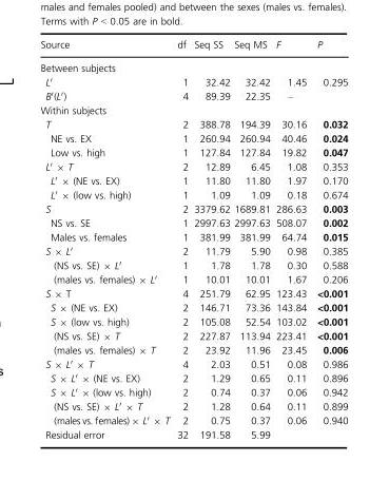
<table><thead><tr><td>Source</td><td>df</td><td>Seq SS</td><td>Seq MS</td><td>F</td><td>P</td></tr></thead><tbody><tr><td colspan="6">Between subjects</td></tr><tr><td>L′</td><td>1</td><td>32.42</td><td>32.42</td><td>1.45</td><td>0.295</td></tr><tr><td>B′(L′)</td><td>4</td><td>89.39</td><td>22.35</td><td>–</td><td></td></tr><tr><td colspan="6">Within subjects</td></tr><tr><td>T</td><td>2</td><td>388.78</td><td>194.39</td><td>30.16</td><td>0.032</td></tr><tr><td>NE vs. EX</td><td>1</td><td>260.94</td><td>260.94</td><td>40.46</td><td>0.024</td></tr><tr><td>Low vs. high</td><td>1</td><td>127.84</td><td>127.84</td><td>19.82</td><td>0.047</td></tr><tr><td>L′ × T</td><td>2</td><td>12.89</td><td>6.45</td><td>1.08</td><td>0.353</td></tr><tr><td>L′ × (NE vs. EX)</td><td>1</td><td>11.80</td><td>11.80</td><td>1.97</td><td>0.170</td></tr><tr><td>L′ × (low vs. high)</td><td>1</td><td>1.09</td><td>1.09</td><td>0.18</td><td>0.674</td></tr><tr><td>S</td><td>2</td><td>3379.62</td><td>1689.81</td><td>286.63</td><td>0.003</td></tr><tr><td>NS vs. SE</td><td>1</td><td>2997.63</td><td>2997.63</td><td>508.07</td><td>0.002</td></tr><tr><td>Males vs. females</td><td>1</td><td>381.99</td><td>381.99</td><td>64.74</td><td>0.015</td></tr><tr><td>S × L′</td><td>2</td><td>11.79</td><td>5.90</td><td>0.98</td><td>0.385</td></tr><tr><td>(NS vs. SE) × L′</td><td>1</td><td>1.78</td><td>1.78</td><td>0.30</td><td>0.588</td></tr><tr><td>(males vs. females) × L′</td><td>1</td><td>10.01</td><td>10.01</td><td>1.67</td><td>0.206</td></tr><tr><td>S × T</td><td>4</td><td>251.79</td><td>62.95</td><td>123.43</td><td>&lt;0.001</td></tr><tr><td>S × (NE vs. EX)</td><td>2</td><td>146.71</td><td>73.36</td><td>143.84</td><td>&lt;0.001</td></tr><tr><td>S × (low vs. high)</td><td>2</td><td>105.08</td><td>52.54</td><td>103.02</td><td>&lt;0.001</td></tr><tr><td>(NS vs. SE) × T</td><td>2</td><td>227.87</td><td>113.94</td><td>223.41</td><td>&lt;0.001</td></tr><tr><td>(males vs. females) × T</td><td>2</td><td>23.92</td><td>11.96</td><td>23.45</td><td>0.006</td></tr><tr><td>S × L′ × T</td><td>4</td><td>2.03</td><td>0.51</td><td>0.08</td><td>0.986</td></tr><tr><td>S × L′ × (NE vs. EX)</td><td>2</td><td>1.29</td><td>0.65</td><td>0.11</td><td>0.896</td></tr><tr><td>S × L′ × (low vs. high)</td><td>2</td><td>0.74</td><td>0.37</td><td>0.06</td><td>0.942</td></tr><tr><td>(NS vs. SE) × L′ × T</td><td>2</td><td>1.28</td><td>0.64</td><td>0.11</td><td>0.899</td></tr><tr><td>(males vs. females) × L′ × T</td><td>2</td><td>0.75</td><td>0.37</td><td>0.06</td><td>0.940</td></tr><tr><td>Residual error</td><td>32</td><td>191.58</td><td>5.99</td><td></td><td></td></tr></tbody></table>